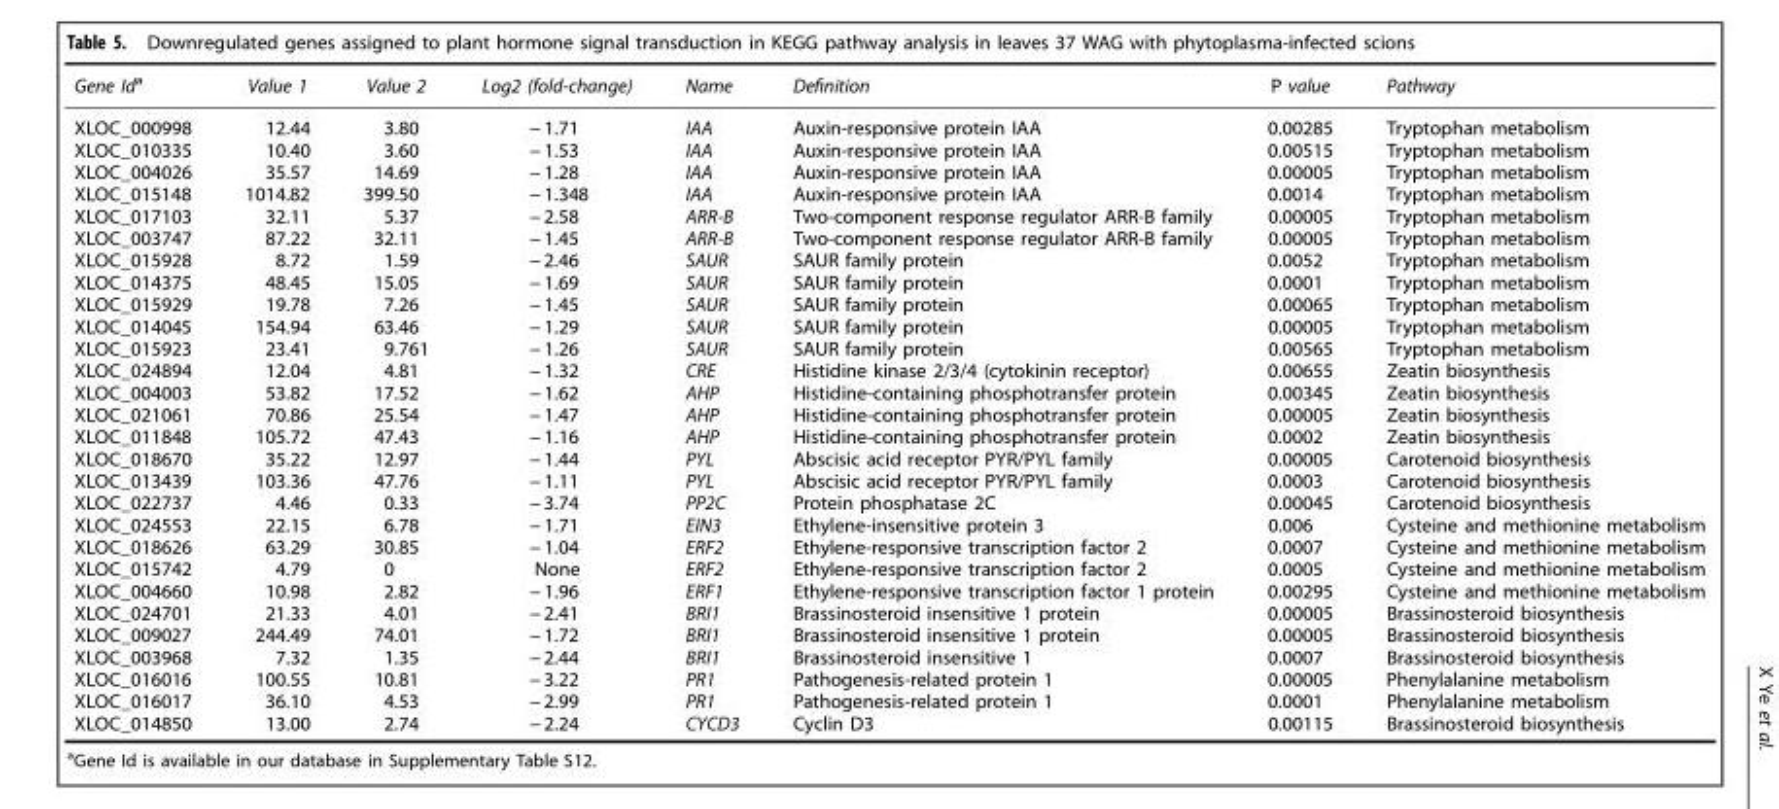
<table><thead><tr><td>Gene Id<sup>a</sup></td><td>Value 1</td><td>Value 2</td><td>Log2 (fold-change)</td><td>Name</td><td>Definition</td><td>P value</td><td>Pathway</td></tr></thead><tbody><tr><td>XLOC_000998</td><td>12.44</td><td>3.80</td><td>− 1.71</td><td>IAA</td><td>Auxin-responsive protein IAA</td><td>0.00285</td><td>Tryptophan metabolism</td></tr><tr><td>XLOC_010335</td><td>10.40</td><td>3.60</td><td>− 1.53</td><td>IAA</td><td>Auxin-responsive protein IAA</td><td>0.00515</td><td>Tryptophan metabolism</td></tr><tr><td>XLOC_004026</td><td>35.57</td><td>14.69</td><td>− 1.28</td><td>IAA</td><td>Auxin-responsive protein IAA</td><td>0.00005</td><td>Tryptophan metabolism</td></tr><tr><td>XLOC_015148</td><td>1014.82</td><td>399.50</td><td>− 1.348</td><td>IAA</td><td>Auxin-responsive protein IAA</td><td>0.0014</td><td>Tryptophan metabolism</td></tr><tr><td>XLOC_017103</td><td>32.11</td><td>5.37</td><td>− 2.58</td><td>ARR-B</td><td>Two-component response regulator ARR-B family</td><td>0.00005</td><td>Tryptophan metabolism</td></tr><tr><td>XLOC_003747</td><td>87.22</td><td>32.11</td><td>− 1.45</td><td>ARR-B</td><td>Two-component response regulator ARR-B family</td><td>0.00005</td><td>Tryptophan metabolism</td></tr><tr><td>XLOC_015928</td><td>8.72</td><td>1.59</td><td>− 2.46</td><td>SAUR</td><td>SAUR family protein</td><td>0.0052</td><td>Tryptophan metabolism</td></tr><tr><td>XLOC_014375</td><td>48.45</td><td>15.05</td><td>− 1.69</td><td>SAUR</td><td>SAUR family protein</td><td>0.0001</td><td>Tryptophan metabolism</td></tr><tr><td>XLOC_015929</td><td>19.78</td><td>7.26</td><td>− 1.45</td><td>SAUR</td><td>SAUR family protein</td><td>0.00065</td><td>Tryptophan metabolism</td></tr><tr><td>XLOC_014045</td><td>154.94</td><td>63.46</td><td>− 1.29</td><td>SAUR</td><td>SAUR family protein</td><td>0.00005</td><td>Tryptophan metabolism</td></tr><tr><td>XLOC_015923</td><td>23.41</td><td>9.761</td><td>− 1.26</td><td>SAUR</td><td>SAUR family protein</td><td>0.00565</td><td>Tryptophan metabolism</td></tr><tr><td>XLOC_024894</td><td>12.04</td><td>4.81</td><td>− 1.32</td><td>CRE</td><td>Histidine kinase 2/3/4 (cytokinin receptor)</td><td>0.00655</td><td>Zeatin biosynthesis</td></tr><tr><td>XLOC_004003</td><td>53.82</td><td>17.52</td><td>− 1.62</td><td>AHP</td><td>Histidine-containing phosphotransfer protein</td><td>0.00345</td><td>Zeatin biosynthesis</td></tr><tr><td>XLOC_021061</td><td>70.86</td><td>25.54</td><td>− 1.47</td><td>AHP</td><td>Histidine-containing phosphotransfer protein</td><td>0.00005</td><td>Zeatin biosynthesis</td></tr><tr><td>XLOC_011848</td><td>105.72</td><td>47.43</td><td>− 1.16</td><td>AHP</td><td>Histidine-containing phosphotransfer protein</td><td>0.0002</td><td>Zeatin biosynthesis</td></tr><tr><td>XLOC_018670</td><td>35.22</td><td>12.97</td><td>− 1.44</td><td>PYL</td><td>Abscisic acid receptor PYR/PYL family</td><td>0.00005</td><td>Carotenoid biosynthesis</td></tr><tr><td>XLOC_013439</td><td>103.36</td><td>47.76</td><td>− 1.11</td><td>PYL</td><td>Abscisic acid receptor PYR/PYL family</td><td>0.0003</td><td>Carotenoid biosynthesis</td></tr><tr><td>XLOC_022737</td><td>4.46</td><td>0.33</td><td>− 3.74</td><td>PP2C</td><td>Protein phosphatase 2C</td><td>0.00045</td><td>Carotenoid biosynthesis</td></tr><tr><td>XLOC_024553</td><td>22.15</td><td>6.78</td><td>− 1.71</td><td>EIN3</td><td>Ethylene-insensitive protein 3</td><td>0.006</td><td>Cysteine and methionine metabolism</td></tr><tr><td>XLOC_018626</td><td>63.29</td><td>30.85</td><td>− 1.04</td><td>ERF2</td><td>Ethylene-responsive transcription factor 2</td><td>0.0007</td><td>Cysteine and methionine metabolism</td></tr><tr><td>XLOC_015742</td><td>4.79</td><td>0</td><td>None</td><td>ERF2</td><td>Ethylene-responsive transcription factor 2</td><td>0.0005</td><td>Cysteine and methionine metabolism</td></tr><tr><td>XLOC_004660</td><td>10.98</td><td>2.82</td><td>− 1.96</td><td>ERF1</td><td>Ethylene-responsive transcription factor 1 protein</td><td>0.00295</td><td>Cysteine and methionine metabolism</td></tr><tr><td>XLOC_024701</td><td>21.33</td><td>4.01</td><td>− 2.41</td><td>BRI1</td><td>Brassinosteroid insensitive 1 protein</td><td>0.00005</td><td>Brassinosteroid biosynthesis</td></tr><tr><td>XLOC_009027</td><td>244.49</td><td>74.01</td><td>− 1.72</td><td>BRI1</td><td>Brassinosteroid insensitive 1 protein</td><td>0.00005</td><td>Brassinosteroid biosynthesis</td></tr><tr><td>XLOC_003968</td><td>7.32</td><td>1.35</td><td>− 2.44</td><td>BRI1</td><td>Brassinosteroid insensitive 1</td><td>0.0007</td><td>Brassinosteroid biosynthesis</td></tr><tr><td>XLOC_016016</td><td>100.55</td><td>10.81</td><td>− 3.22</td><td>PR1</td><td>Pathogenesis-related protein 1</td><td>0.00005</td><td>Phenylalanine metabolism</td></tr><tr><td>XLOC_016017</td><td>36.10</td><td>4.53</td><td>− 2.99</td><td>PR1</td><td>Pathogenesis-related protein 1</td><td>0.0001</td><td>Phenylalanine metabolism</td></tr><tr><td>XLOC_014850</td><td>13.00</td><td>2.74</td><td>− 2.24</td><td>CYCD3</td><td>Cyclin D3</td><td>0.00115</td><td>Brassinosteroid biosynthesis</td></tr></tbody></table>